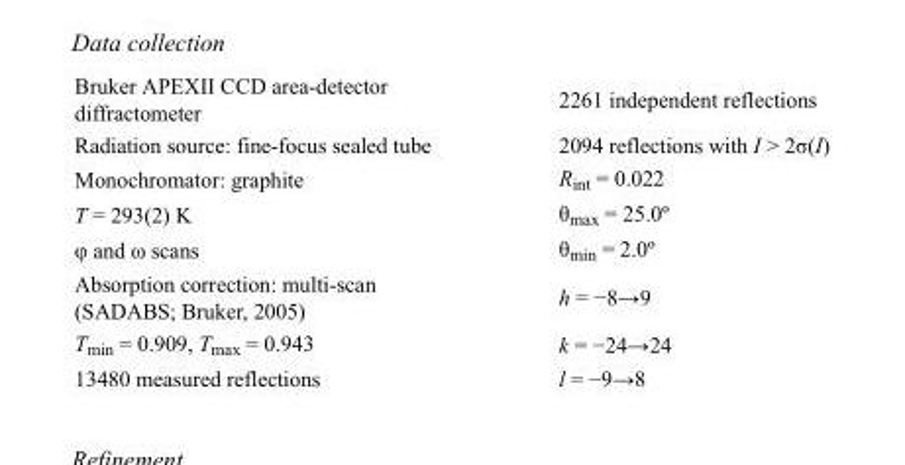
<table><tbody><tr><td>Bruker APEXII CCD area-detector diffractometer</td><td>2261 independent reflections</td></tr><tr><td>Radiation source: fine-focus sealed tube</td><td>2094 reflections with I &gt; 2σ(I)</td></tr><tr><td>Monochromator: graphite</td><td>R<sub>int</sub> = 0.022</td></tr><tr><td>T = 293(2) K</td><td>θ<sub>max</sub> = 25.0º</td></tr><tr><td>φ and ω scans</td><td>θ<sub>min</sub> = 2.0º</td></tr><tr><td>Absorption correction: multi-scan (SADABS; Bruker, 2005)</td><td>h = −8→9</td></tr><tr><td>T<sub>min</sub> = 0.909, T<sub>max</sub> = 0.943</td><td>k = −24→24</td></tr><tr><td>13480 measured reflections</td><td>l = −9→8</td></tr></tbody></table>